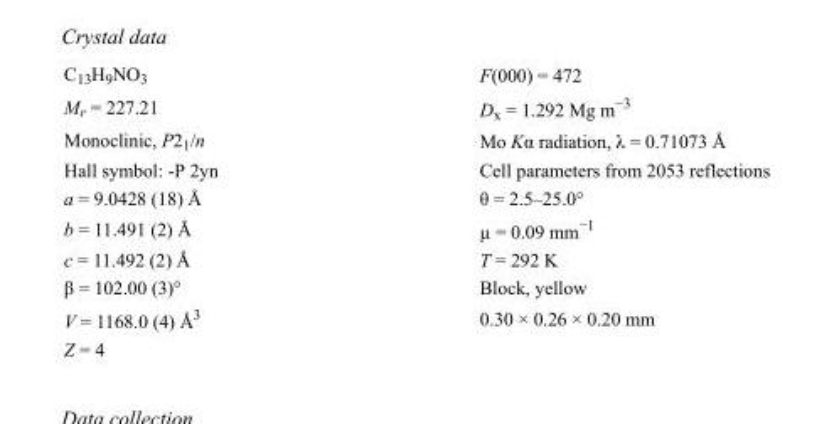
<table><tbody><tr><td>C<sub>13</sub>H<sub>9</sub>NO<sub>3</sub></td><td>F(000) = 472</td></tr><tr><td>M<sub>r</sub> = 227.21</td><td>D<sub>x</sub> = 1.292 Mg m<sup>−3</sup></td></tr><tr><td>Monoclinic, P2<sub>1</sub>/n</td><td>Mo Kα radiation, λ = 0.71073 Å</td></tr><tr><td>Hall symbol: -P 2yn</td><td>Cell parameters from 2053 reflections</td></tr><tr><td>a = 9.0428 (18) Å</td><td>θ = 2.5–25.0°</td></tr><tr><td>b = 11.491 (2) Å</td><td>µ = 0.09 mm<sup>−1</sup></td></tr><tr><td>c = 11.492 (2) Å</td><td>T = 292 K</td></tr><tr><td>β = 102.00 (3)°</td><td>Block, yellow</td></tr><tr><td>V = 1168.0 (4) Å<sup>3</sup></td><td>0.30 × 0.26 × 0.20 mm</td></tr><tr><td>Z = 4</td><td></td></tr></tbody></table>